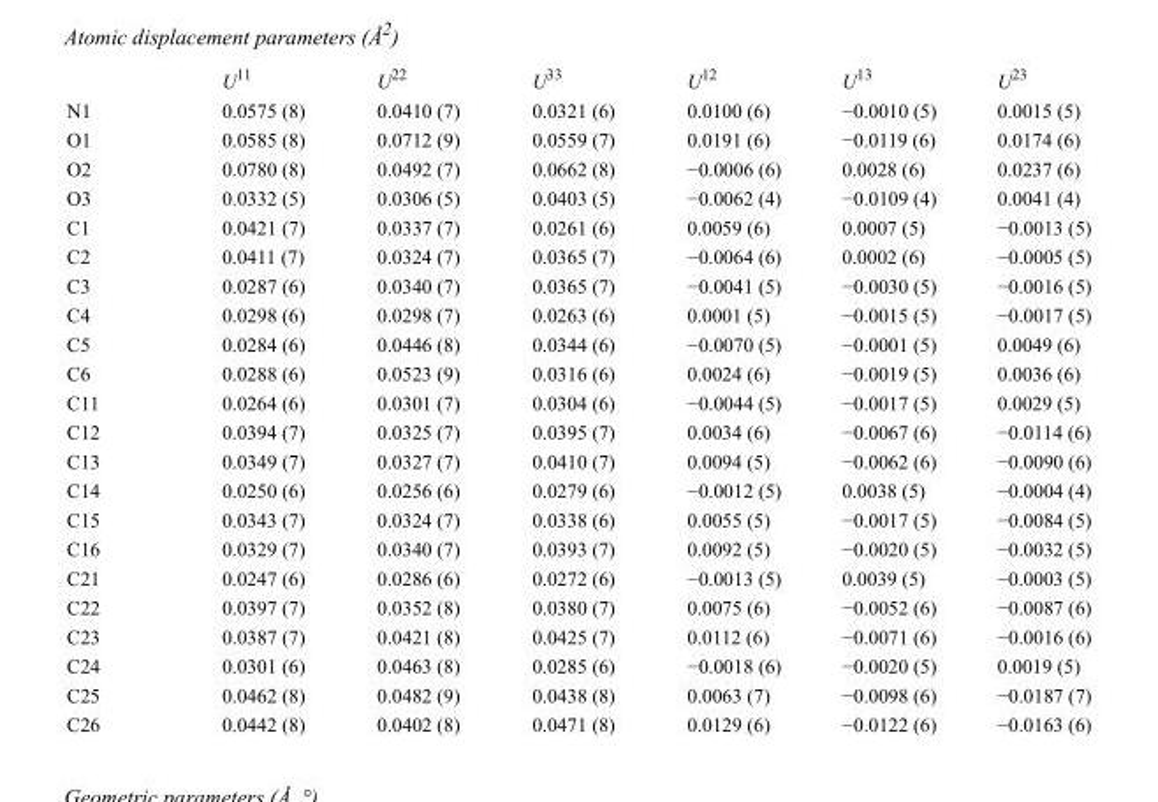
<table><thead><tr><td></td><td>U<sup>11</sup></td><td>U<sup>22</sup></td><td>U<sup>33</sup></td><td>U<sup>12</sup></td><td>U<sup>13</sup></td><td>U<sup>23</sup></td></tr></thead><tbody><tr><td>N1</td><td>0.0575 (8)</td><td>0.0410 (7)</td><td>0.0321 (6)</td><td>0.0100 (6)</td><td>−0.0010 (5)</td><td>0.0015 (5)</td></tr><tr><td>O1</td><td>0.0585 (8)</td><td>0.0712 (9)</td><td>0.0559 (7)</td><td>0.0191 (6)</td><td>−0.0119 (6)</td><td>0.0174 (6)</td></tr><tr><td>O2</td><td>0.0780 (8)</td><td>0.0492 (7)</td><td>0.0662 (8)</td><td>−0.0006 (6)</td><td>0.0028 (6)</td><td>0.0237 (6)</td></tr><tr><td>O3</td><td>0.0332 (5)</td><td>0.0306 (5)</td><td>0.0403 (5)</td><td>−0.0062 (4)</td><td>−0.0109 (4)</td><td>0.0041 (4)</td></tr><tr><td>C1</td><td>0.0421 (7)</td><td>0.0337 (7)</td><td>0.0261 (6)</td><td>0.0059 (6)</td><td>0.0007 (5)</td><td>−0.0013 (5)</td></tr><tr><td>C2</td><td>0.0411 (7)</td><td>0.0324 (7)</td><td>0.0365 (7)</td><td>−0.0064 (6)</td><td>0.0002 (6)</td><td>−0.0005 (5)</td></tr><tr><td>C3</td><td>0.0287 (6)</td><td>0.0340 (7)</td><td>0.0365 (7)</td><td>−0.0041 (5)</td><td>−0.0030 (5)</td><td>−0.0016 (5)</td></tr><tr><td>C4</td><td>0.0298 (6)</td><td>0.0298 (7)</td><td>0.0263 (6)</td><td>0.0001 (5)</td><td>−0.0015 (5)</td><td>−0.0017 (5)</td></tr><tr><td>C5</td><td>0.0284 (6)</td><td>0.0446 (8)</td><td>0.0344 (6)</td><td>−0.0070 (5)</td><td>−0.0001 (5)</td><td>0.0049 (6)</td></tr><tr><td>C6</td><td>0.0288 (6)</td><td>0.0523 (9)</td><td>0.0316 (6)</td><td>0.0024 (6)</td><td>−0.0019 (5)</td><td>0.0036 (6)</td></tr><tr><td>C11</td><td>0.0264 (6)</td><td>0.0301 (7)</td><td>0.0304 (6)</td><td>−0.0044 (5)</td><td>−0.0017 (5)</td><td>0.0029 (5)</td></tr><tr><td>C12</td><td>0.0394 (7)</td><td>0.0325 (7)</td><td>0.0395 (7)</td><td>0.0034 (6)</td><td>−0.0067 (6)</td><td>−0.0114 (6)</td></tr><tr><td>C13</td><td>0.0349 (7)</td><td>0.0327 (7)</td><td>0.0410 (7)</td><td>0.0094 (5)</td><td>−0.0062 (6)</td><td>−0.0090 (6)</td></tr><tr><td>C14</td><td>0.0250 (6)</td><td>0.0256 (6)</td><td>0.0279 (6)</td><td>−0.0012 (5)</td><td>0.0038 (5)</td><td>−0.0004 (4)</td></tr><tr><td>C15</td><td>0.0343 (7)</td><td>0.0324 (7)</td><td>0.0338 (6)</td><td>0.0055 (5)</td><td>−0.0017 (5)</td><td>−0.0084 (5)</td></tr><tr><td>C16</td><td>0.0329 (7)</td><td>0.0340 (7)</td><td>0.0393 (7)</td><td>0.0092 (5)</td><td>−0.0020 (5)</td><td>−0.0032 (5)</td></tr><tr><td>C21</td><td>0.0247 (6)</td><td>0.0286 (6)</td><td>0.0272 (6)</td><td>−0.0013 (5)</td><td>0.0039 (5)</td><td>−0.0003 (5)</td></tr><tr><td>C22</td><td>0.0397 (7)</td><td>0.0352 (8)</td><td>0.0380 (7)</td><td>0.0075 (6)</td><td>−0.0052 (6)</td><td>−0.0087 (6)</td></tr><tr><td>C23</td><td>0.0387 (7)</td><td>0.0421 (8)</td><td>0.0425 (7)</td><td>0.0112 (6)</td><td>−0.0071 (6)</td><td>−0.0016 (6)</td></tr><tr><td>C24</td><td>0.0301 (6)</td><td>0.0463 (8)</td><td>0.0285 (6)</td><td>−0.0018 (6)</td><td>−0.0020 (5)</td><td>0.0019 (5)</td></tr><tr><td>C25</td><td>0.0462 (8)</td><td>0.0482 (9)</td><td>0.0438 (8)</td><td>0.0063 (7)</td><td>−0.0098 (6)</td><td>−0.0187 (7)</td></tr><tr><td>C26</td><td>0.0442 (8)</td><td>0.0402 (8)</td><td>0.0471 (8)</td><td>0.0129 (6)</td><td>−0.0122 (6)</td><td>−0.0163 (6)</td></tr></tbody></table>